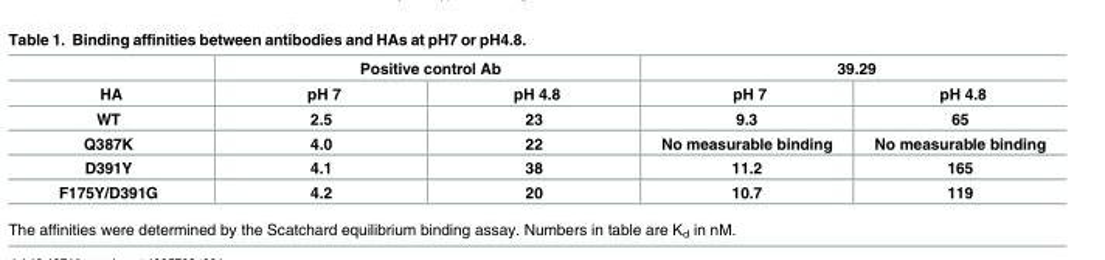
<table><thead><tr><td rowspan="2">HA</td><td colspan="2">Positive control Ab</td><td colspan="2">39.29</td></tr><tr><td>pH 7</td><td>pH 4.8</td><td>pH 7</td><td>pH 4.8</td></tr></thead><tbody><tr><td>WT</td><td>2.5</td><td>23</td><td>9.3</td><td>65</td></tr><tr><td>Q387K</td><td>4.0</td><td>22</td><td>No measurable binding</td><td>No measurable binding</td></tr><tr><td>D391Y</td><td>4.1</td><td>38</td><td>11.2</td><td>165</td></tr><tr><td>F175Y/D391G</td><td>4.2</td><td>20</td><td>10.7</td><td>119</td></tr></tbody></table>